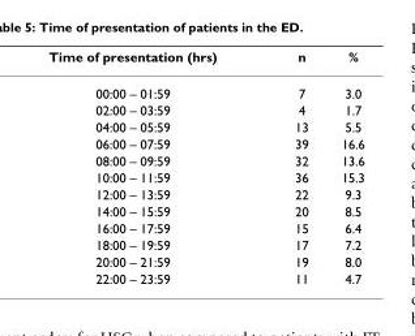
<table><thead><tr><td>Time of presentation (hrs)</td><td>n</td><td>%</td></tr></thead><tbody><tr><td>00:00 – 01:59</td><td>7</td><td>3.0</td></tr><tr><td>02:00 – 03:59</td><td>4</td><td>1.7</td></tr><tr><td>04:00 – 05:59</td><td>13</td><td>5.5</td></tr><tr><td>06:00 – 07:59</td><td>39</td><td>16.6</td></tr><tr><td>08:00 – 09:59</td><td>32</td><td>13.6</td></tr><tr><td>10:00 – 11:59</td><td>36</td><td>15.3</td></tr><tr><td>12:00 – 13:59</td><td>22</td><td>9.3</td></tr><tr><td>14:00 – 15:59</td><td>20</td><td>8.5</td></tr><tr><td>16:00 – 17:59</td><td>15</td><td>6.4</td></tr><tr><td>18:00 – 19:59</td><td>17</td><td>7.2</td></tr><tr><td>20:00 – 21:59</td><td>19</td><td>8.0</td></tr><tr><td>22:00 – 23:59</td><td>11</td><td>4.7</td></tr></tbody></table>